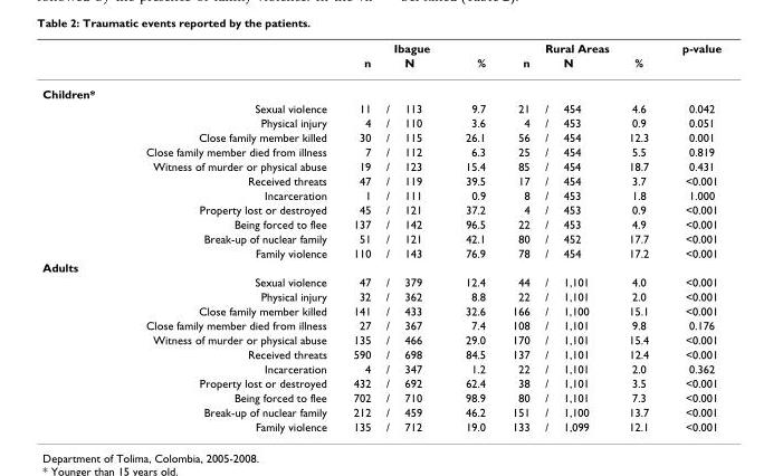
<table><thead><tr><td rowspan="2"></td><td colspan="4">Ibague</td><td colspan="4">Rural Areas</td><td rowspan="2">p-value</td></tr><tr><td>n</td><td></td><td>N</td><td>%</td><td>n</td><td></td><td>N</td><td>%</td></tr></thead><tbody><tr><td colspan="10">Children*</td></tr><tr><td>Sexual violence</td><td>11</td><td>/</td><td>113</td><td>9.7</td><td>21</td><td>/</td><td>454</td><td>4.6</td><td>0.042</td></tr><tr><td>Physical injury</td><td>4</td><td>/</td><td>110</td><td>3.6</td><td>4</td><td>/</td><td>453</td><td>0.9</td><td>0.051</td></tr><tr><td>Close family member killed</td><td>30</td><td>/</td><td>115</td><td>26.1</td><td>56</td><td>/</td><td>454</td><td>12.3</td><td>0.001</td></tr><tr><td>Close family member died from illness</td><td>7</td><td>/</td><td>112</td><td>6.3</td><td>25</td><td>/</td><td>454</td><td>5.5</td><td>0.819</td></tr><tr><td>Witness of murder or physical abuse</td><td>19</td><td>/</td><td>123</td><td>15.4</td><td>85</td><td>/</td><td>454</td><td>18.7</td><td>0.431</td></tr><tr><td>Received threats</td><td>47</td><td>/</td><td>119</td><td>39.5</td><td>17</td><td>/</td><td>454</td><td>3.7</td><td>&lt;0.001</td></tr><tr><td>Incarceration</td><td>1</td><td>/</td><td>111</td><td>0.9</td><td>8</td><td>/</td><td>453</td><td>1.8</td><td>1.000</td></tr><tr><td>Property lost or destroyed</td><td>45</td><td>/</td><td>121</td><td>37.2</td><td>4</td><td>/</td><td>453</td><td>0.9</td><td>&lt;0.001</td></tr><tr><td>Being forced to flee</td><td>137</td><td>/</td><td>142</td><td>96.5</td><td>22</td><td>/</td><td>453</td><td>4.9</td><td>&lt;0.001</td></tr><tr><td>Break-up of nuclear family</td><td>51</td><td>/</td><td>121</td><td>42.1</td><td>80</td><td>/</td><td>452</td><td>17.7</td><td>&lt;0.001</td></tr><tr><td>Family violence</td><td>110</td><td>/</td><td>143</td><td>76.9</td><td>78</td><td>/</td><td>454</td><td>17.2</td><td>&lt;0.001</td></tr><tr><td colspan="10">Adults</td></tr><tr><td>Sexual violence</td><td>47</td><td>/</td><td>379</td><td>12.4</td><td>44</td><td>/</td><td>1,101</td><td>4.0</td><td>&lt;0.001</td></tr><tr><td>Physical injury</td><td>32</td><td>/</td><td>362</td><td>8.8</td><td>22</td><td>/</td><td>1,101</td><td>2.0</td><td>&lt;0.001</td></tr><tr><td>Close family member killed</td><td>141</td><td>/</td><td>433</td><td>32.6</td><td>166</td><td>/</td><td>1,100</td><td>15.1</td><td>&lt;0.001</td></tr><tr><td>Close family member died from illness</td><td>27</td><td>/</td><td>367</td><td>7.4</td><td>108</td><td>/</td><td>1,101</td><td>9.8</td><td>0.176</td></tr><tr><td>Witness of murder or physical abuse</td><td>135</td><td>/</td><td>466</td><td>29.0</td><td>170</td><td>/</td><td>1,101</td><td>15.4</td><td>&lt;0.001</td></tr><tr><td>Received threats</td><td>590</td><td>/</td><td>698</td><td>84.5</td><td>137</td><td>/</td><td>1,101</td><td>12.4</td><td>&lt;0.001</td></tr><tr><td>Incarceration</td><td>4</td><td>/</td><td>347</td><td>1.2</td><td>22</td><td>/</td><td>1,101</td><td>2.0</td><td>0.362</td></tr><tr><td>Property lost or destroyed</td><td>432</td><td>/</td><td>692</td><td>62.4</td><td>38</td><td>/</td><td>1,101</td><td>3.5</td><td>&lt;0.001</td></tr><tr><td>Being forced to flee</td><td>702</td><td>/</td><td>710</td><td>98.9</td><td>80</td><td>/</td><td>1,101</td><td>7.3</td><td>&lt;0.001</td></tr><tr><td>Break-up of nuclear family</td><td>212</td><td>/</td><td>459</td><td>46.2</td><td>151</td><td>/</td><td>1,100</td><td>13.7</td><td>&lt;0.001</td></tr><tr><td>Family violence</td><td>135</td><td>/</td><td>712</td><td>19.0</td><td>133</td><td>/</td><td>1,099</td><td>12.1</td><td>&lt;0.001</td></tr></tbody></table>